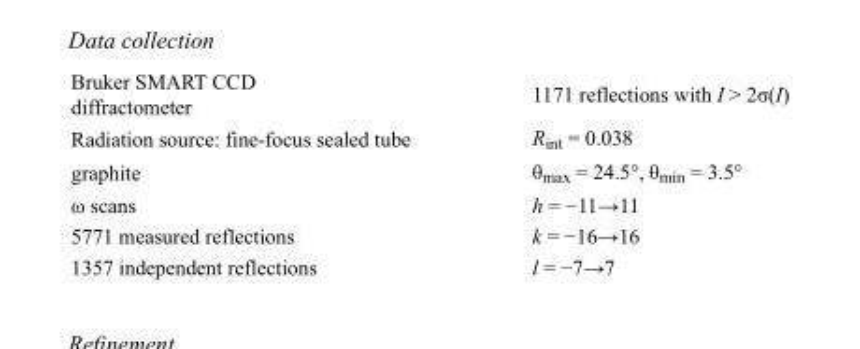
<table><tbody><tr><td>Bruker SMART CCD diffractometer</td><td>1171 reflections with I &gt; 2σ(I)</td></tr><tr><td>Radiation source: fine-focus sealed tube</td><td>R<sub>int</sub> = 0.038</td></tr><tr><td>graphite</td><td>θ<sub>max</sub> = 24.5°, θ<sub>min</sub> = 3.5°</td></tr><tr><td>ω scans</td><td>h = −11→11</td></tr><tr><td>5771 measured reflections</td><td>k = −16→16</td></tr><tr><td>1357 independent reflections</td><td>l = −7→7</td></tr></tbody></table>